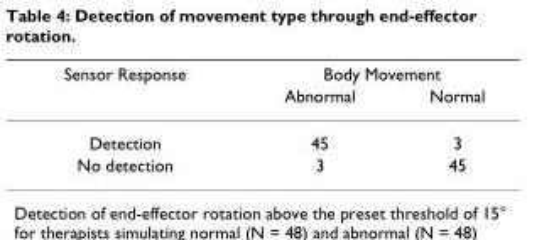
<table><thead><tr><td rowspan="2">Sensor Response</td><td colspan="2">Body Movement</td></tr><tr><td>Abnormal</td><td>Normal</td></tr></thead><tbody><tr><td>Detection</td><td>45</td><td>3</td></tr><tr><td>No detection</td><td>3</td><td>45</td></tr></tbody></table>